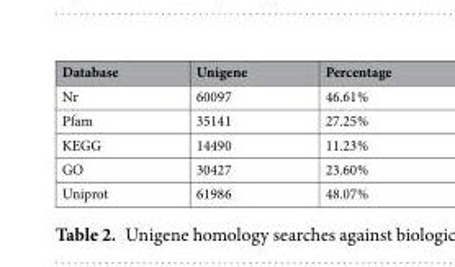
<table><thead><tr><td>Database</td><td>Unigene</td><td>Percentage</td></tr></thead><tbody><tr><td>Nr</td><td>60097</td><td>46.61%</td></tr><tr><td>Pfam</td><td>35141</td><td>27.25%</td></tr><tr><td>KEGG</td><td>14490</td><td>11.23%</td></tr><tr><td>GO</td><td>30427</td><td>23.60%</td></tr><tr><td>Uniprot</td><td>61986</td><td>48.07%</td></tr></tbody></table>